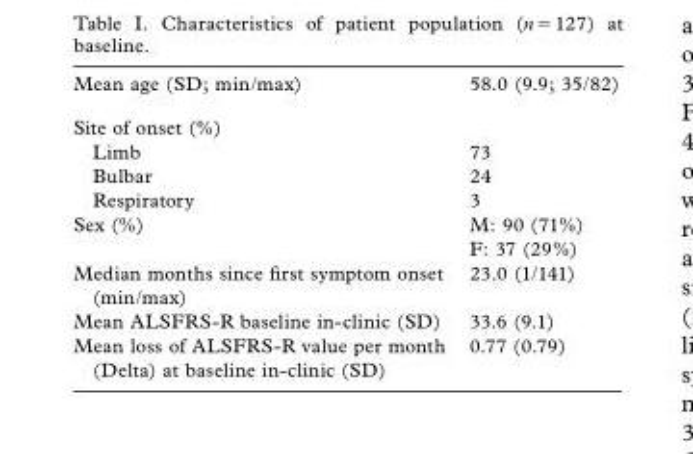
<table><tbody><tr><td>Mean age (SD; min/max)</td><td>58.0 (9.9; 35/82)</td></tr><tr><td colspan="2">Site of onset (%)</td></tr><tr><td>Limb</td><td>73</td></tr><tr><td>Bulbar</td><td>24</td></tr><tr><td>Respiratory</td><td>3</td></tr><tr><td rowspan="2">Sex (%)</td><td>M: 90 (71%)</td></tr><tr><td>F: 37 (29%)</td></tr><tr><td>Median months since fi rst symptom onset (min/max)</td><td>23.0 (1/141)</td></tr><tr><td>Mean ALSFRS-R baseline in-clinic (SD)</td><td>33.6 (9.1)</td></tr><tr><td>Mean loss of ALSFRS-R value per month (Delta) at baseline in-clinic (SD)</td><td>0.77 (0.79)</td></tr></tbody></table>